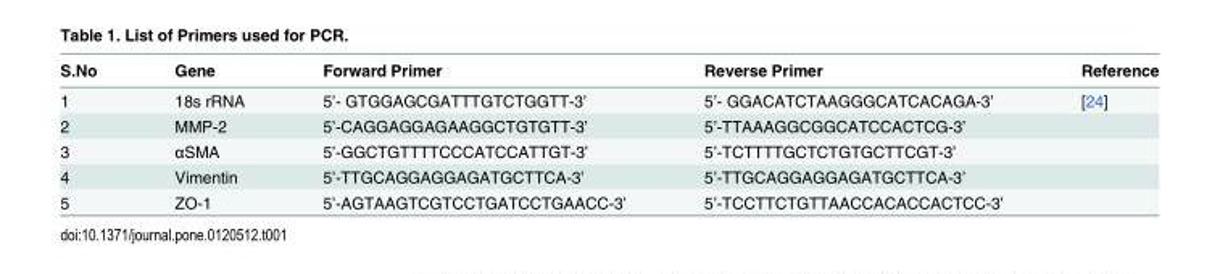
<table><thead><tr><td>S.No</td><td>Gene</td><td>Forward Primer</td><td>Reverse Primer</td><td>Reference</td></tr></thead><tbody><tr><td>1</td><td>18s rRNA</td><td>5’- GTGGAGCGATTTGTCTGGTT-3’</td><td>5’- GGACATCTAAGGGCATCACAGA-3’</td><td>[24]</td></tr><tr><td>2</td><td>MMP-2</td><td>5’-CAGGAGGAGAAGGCTGTGTT-3’</td><td>5’-TTAAAGGCGGCATCCACTCG-3’</td><td></td></tr><tr><td>3</td><td>αSMA</td><td>5’-GGCTGTTTTCCCATCCATTGT-3’</td><td>5’-TCTTTTGCTCTGTGCTTCGT-3’</td><td></td></tr><tr><td>4</td><td>Vimentin</td><td>5’-TTGCAGGAGGAGATGCTTCA-3’</td><td>5’-TTGCAGGAGGAGATGCTTCA-3’</td><td></td></tr><tr><td>5</td><td>ZO-1</td><td>5’-AGTAAGTCGTCCTGATCCTGAACC-3’</td><td>5’-TCCTTCTGTTAACCACACCACTCC-3’</td><td></td></tr></tbody></table>